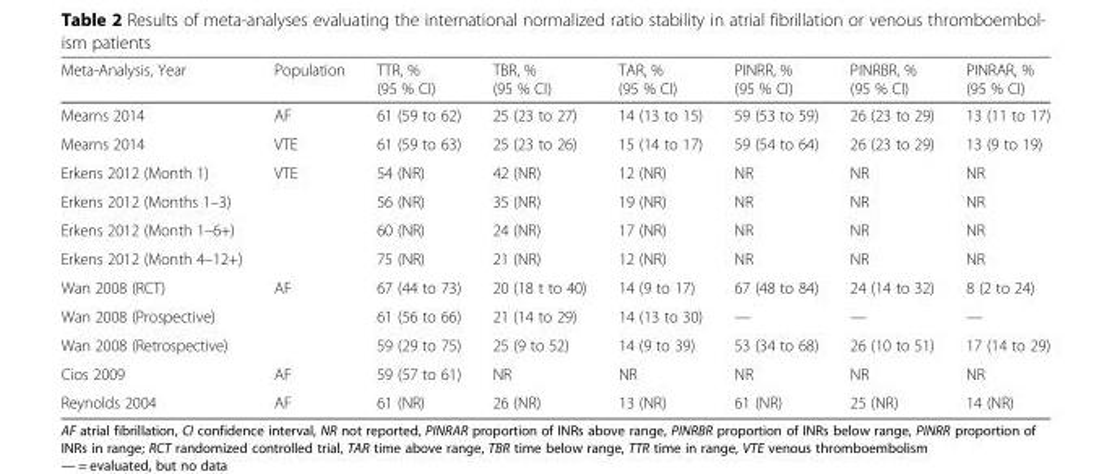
<table><thead><tr><td>Meta-Analysis, Year</td><td>Population</td><td>TTR, % (95 % CI)</td><td>TBR, % (95 % CI)</td><td>TAR, % (95 % CI)</td><td>PINRR, % (95 % CI)</td><td>PINRBR, % (95 % CI)</td><td>PINRAR, % (95 % CI)</td></tr></thead><tbody><tr><td>Mearns 2014</td><td>AF</td><td>61 (59 to 62)</td><td>25 (23 to 27)</td><td>14 (13 to 15)</td><td>59 (53 to 59)</td><td>26 (23 to 29)</td><td>13 (11 to 17)</td></tr><tr><td>Mearns 2014</td><td>VTE</td><td>61 (59 to 63)</td><td>25 (23 to 26)</td><td>15 (14 to 17)</td><td>59 (54 to 64)</td><td>26 (23 to 29)</td><td>13 (9 to 19)</td></tr><tr><td>Erkens 2012 (Month 1)</td><td rowspan="4">VTE</td><td>54 (NR)</td><td>42 (NR)</td><td>12 (NR)</td><td>NR</td><td>NR</td><td>NR</td></tr><tr><td>Erkens 2012 (Months 1–3)</td><td>56 (NR)</td><td>35 (NR)</td><td>19 (NR)</td><td>NR</td><td>NR</td><td>NR</td></tr><tr><td>Erkens 2012 (Month 1–6+)</td><td>60 (NR)</td><td>24 (NR)</td><td>17 (NR)</td><td>NR</td><td>NR</td><td>NR</td></tr><tr><td>Erkens 2012 (Month 4–12+)</td><td>75 (NR)</td><td>21 (NR)</td><td>12 (NR)</td><td>NR</td><td>NR</td><td>NR</td></tr><tr><td>Wan 2008 (RCT)</td><td rowspan="3">AF</td><td>67 (44 to 73)</td><td>20 (18 t to 40)</td><td>14 (9 to 17)</td><td>67 (48 to 84)</td><td>24 (14 to 32)</td><td>8 (2 to 24)</td></tr><tr><td>Wan 2008 (Prospective)</td><td>61 (56 to 66)</td><td>21 (14 to 29)</td><td>14 (13 to 30)</td><td>—</td><td>—</td><td>—</td></tr><tr><td>Wan 2008 (Retrospective)</td><td>59 (29 to 75)</td><td>25 (9 to 52)</td><td>14 (9 to 39)</td><td>53 (34 to 68)</td><td>26 (10 to 51)</td><td>17 (14 to 29)</td></tr><tr><td>Cios 2009</td><td>AF</td><td>59 (57 to 61)</td><td>NR</td><td>NR</td><td>NR</td><td>NR</td><td>NR</td></tr><tr><td>Reynolds 2004</td><td>AF</td><td>61 (NR)</td><td>26 (NR)</td><td>13 (NR)</td><td>61 (NR)</td><td>25 (NR)</td><td>14 (NR)</td></tr></tbody></table>